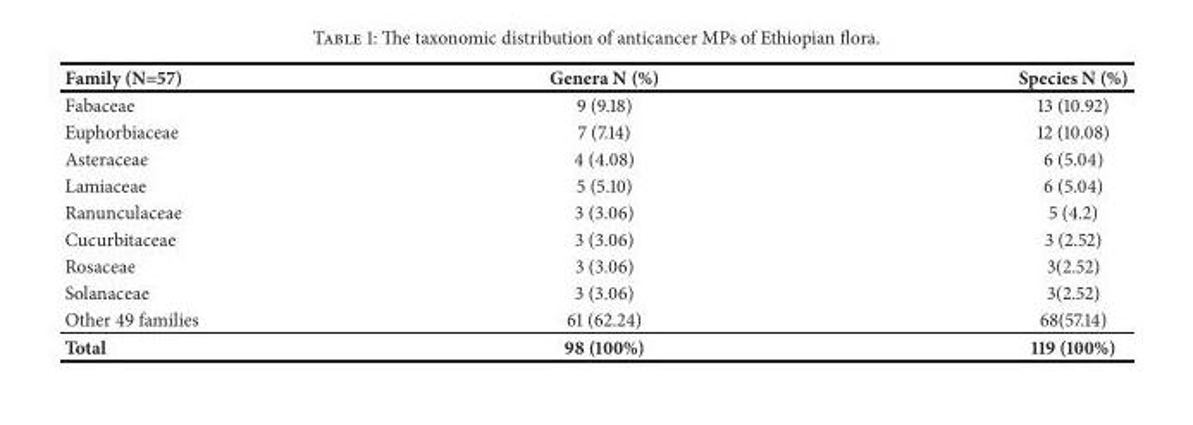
<table><thead><tr><td>Family (N=57)</td><td>Genera N (%)</td><td>Species N (%)</td></tr></thead><tbody><tr><td>Fabaceae</td><td>9 (9.18)</td><td>13 (10.92)</td></tr><tr><td>Euphorbiaceae</td><td>7 (7.14)</td><td>12 (10.08)</td></tr><tr><td>Asteraceae</td><td>4 (4.08)</td><td>6 (5.04)</td></tr><tr><td>Lamiaceae</td><td>5 (5.10)</td><td>6 (5.04)</td></tr><tr><td>Ranunculaceae</td><td>3 (3.06)</td><td>5 (4.2)</td></tr><tr><td>Cucurbitaceae</td><td>3 (3.06)</td><td>3 (2.52)</td></tr><tr><td>Rosaceae</td><td>3 (3.06)</td><td>3(2.52)</td></tr><tr><td>Solanaceae</td><td>3 (3.06)</td><td>3(2.52)</td></tr><tr><td>Other 49 families</td><td>61 (62.24)</td><td>68(57.14)</td></tr><tr><td>Total</td><td>98 (100%)</td><td>119 (100%)</td></tr></tbody></table>